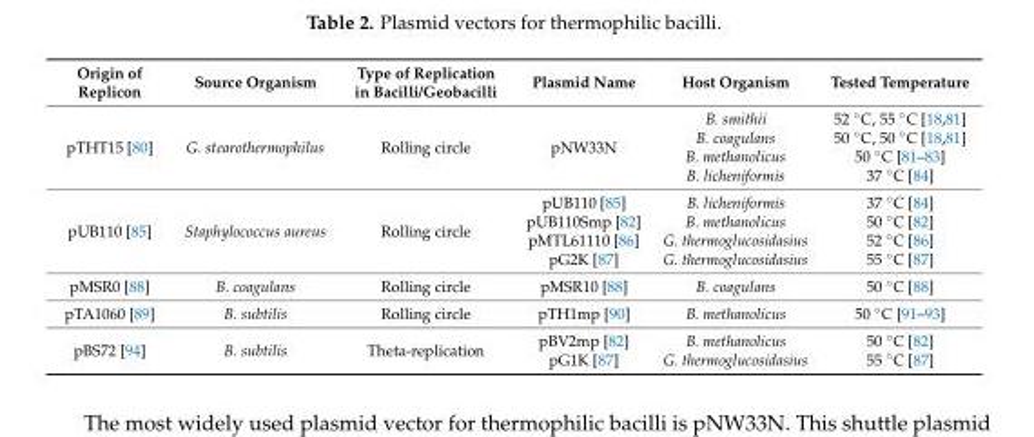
<table><thead><tr><td>Origin of Replicon</td><td>Source Organism</td><td>Type of Replication in Bacilli/Geobacilli</td><td>Plasmid Name</td><td>Host Organism</td><td>Tested Temperature</td></tr></thead><tbody><tr><td>pTHT15 [80]</td><td>G. stearothermophilus</td><td>Rolling circle</td><td>pNW33N</td><td>B. smithii B. coagulans B. methanolicus B. licheniformis</td><td>52 ◦C, 55 ◦C [18,81] 50 ◦C, 50 ◦C [18,81] 50 ◦C [81–83] 37 ◦C [84]</td></tr><tr><td>pUB110 [85]</td><td>Staphylococcus aureus</td><td>Rolling circle</td><td>pUB110 [85] pUB110Smp [82] pMTL61110 [86] pG2K [87]</td><td>B. licheniformis B. methanolicus G. thermoglucosidasius G. thermoglucosidasius</td><td>37 ◦C [84] 50 ◦C [82] 52 ◦C [86] 55 ◦C [87]</td></tr><tr><td>pMSR0 [88]</td><td>B. coagulans</td><td>Rolling circle</td><td>pMSR10 [88]</td><td>B. coagulans</td><td>50 ◦C [88]</td></tr><tr><td>pTA1060 [89]</td><td>B. subtilis</td><td>Rolling circle</td><td>pTH1mp [90]</td><td>B. methanolicus</td><td>50 ◦C [91–93]</td></tr><tr><td>pBS72 [94]</td><td>B. subtilis</td><td>Theta-replication</td><td>pBV2mp [82] pG1K [87]</td><td>B. methanolicus G. thermoglucosidasius</td><td>50 ◦C [82] 55 ◦C [87]</td></tr></tbody></table>